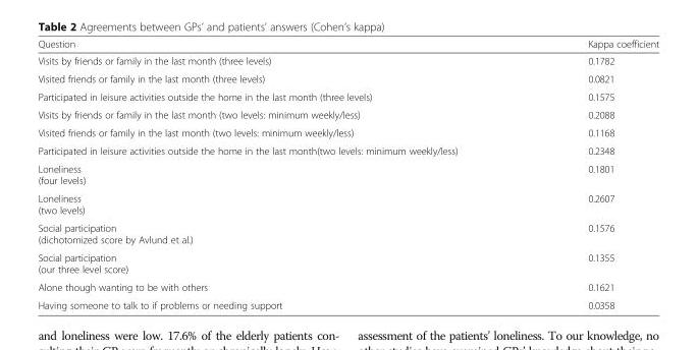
<table><thead><tr><td>Question</td><td>Kappa coefficient</td></tr></thead><tbody><tr><td>Visits by friends or family in the last month (three levels)</td><td>0.1782</td></tr><tr><td>Visited friends or family in the last month (three levels)</td><td>0.0821</td></tr><tr><td>Participated in leisure activities outside the home in the last month (three levels)</td><td>0.1575</td></tr><tr><td>Visits by friends or family in the last month (two levels: minimum weekly/less)</td><td>0.2088</td></tr><tr><td>Visited friends or family in the last month (two levels: minimum weekly/less)</td><td>0.1168</td></tr><tr><td>Participated in leisure activities outside the home in the last month(two levels: minimum weekly/less)</td><td>0.2348</td></tr><tr><td>Loneliness (four levels)</td><td>0.1801</td></tr><tr><td>Loneliness (two levels)</td><td>0.2607</td></tr><tr><td>Social participation (dichotomized score by Avlund et al.)</td><td>0.1576</td></tr><tr><td>Social participation (our three level score)</td><td>0.1355</td></tr><tr><td>Alone though wanting to be with others</td><td>0.1621</td></tr><tr><td>Having someone to talk to if problems or needing support</td><td>0.0358</td></tr></tbody></table>